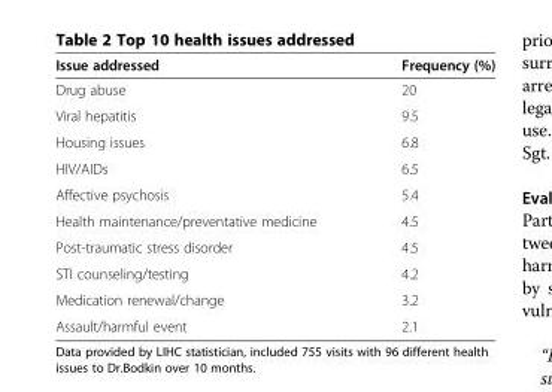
<table><thead><tr><td>Issue addressed</td><td>Frequency (%)</td></tr></thead><tbody><tr><td>Drug abuse</td><td>20</td></tr><tr><td>Viral hepatitis</td><td>9.5</td></tr><tr><td>Housing issues</td><td>6.8</td></tr><tr><td>HIV/AIDs</td><td>6.5</td></tr><tr><td>Affective psychosis</td><td>5.4</td></tr><tr><td>Health maintenance/preventative medicine</td><td>4.5</td></tr><tr><td>Post-traumatic stress disorder</td><td>4.5</td></tr><tr><td>STI counseling/testing</td><td>4.2</td></tr><tr><td>Medication renewal/change</td><td>3.2</td></tr><tr><td>Assault/harmful event</td><td>2.1</td></tr></tbody></table>